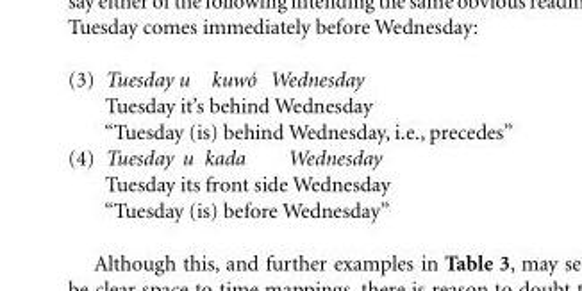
<table><tbody><tr><td rowspan="3">(3)</td><td>Tuesday u kuwó Wednesday</td></tr><tr><td>Tuesday it’s behind Wednesday</td></tr><tr><td>“Tuesday (is) behind Wednesday, i.e., precedes”</td></tr><tr><td rowspan="3">(4)</td><td>Tuesday u kada Wednesday</td></tr><tr><td>Tuesday its front side Wednesday</td></tr><tr><td>“Tuesday (is) before Wednesday”</td></tr></tbody></table>